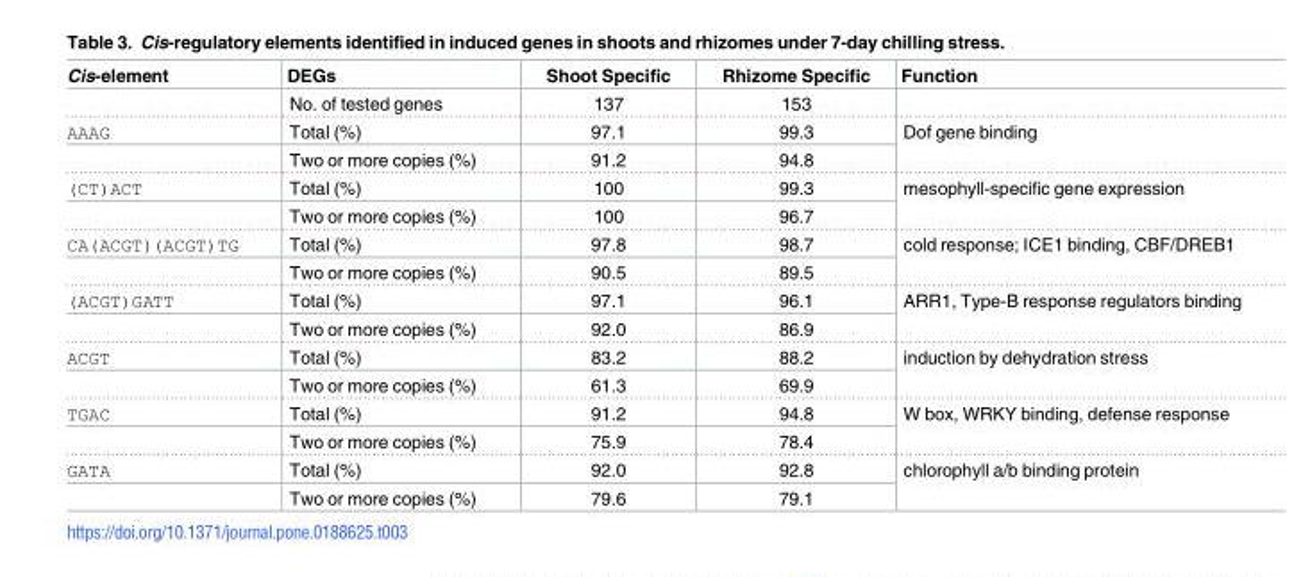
<table><thead><tr><td>Cis-element</td><td>DEGs</td><td>Shoot Specific</td><td>Rhizome Specific</td><td>Function</td></tr></thead><tbody><tr><td></td><td>No. of tested genes</td><td>137</td><td>153</td><td></td></tr><tr><td rowspan="2">AAAG</td><td>Total (%)</td><td>97.1</td><td>99.3</td><td rowspan="2">Dof gene binding</td></tr><tr><td>Two or more copies (%)</td><td>91.2</td><td>94.8</td></tr><tr><td rowspan="2">(CT)ACT</td><td>Total (%)</td><td>100</td><td>99.3</td><td rowspan="2">mesophyll-specific gene expression</td></tr><tr><td>Two or more copies (%)</td><td>100</td><td>96.7</td></tr><tr><td rowspan="2">CA(ACGT)(ACGT)TG</td><td>Total (%)</td><td>97.8</td><td>98.7</td><td rowspan="2">cold response; ICE1 binding, CBF/DREB1</td></tr><tr><td>Two or more copies (%)</td><td>90.5</td><td>89.5</td></tr><tr><td rowspan="2">(ACGT)GATT</td><td>Total (%)</td><td>97.1</td><td>96.1</td><td rowspan="2">ARR1, Type-B response regulators binding</td></tr><tr><td>Two or more copies (%)</td><td>92.0</td><td>86.9</td></tr><tr><td rowspan="2">ACGT</td><td>Total (%)</td><td>83.2</td><td>88.2</td><td rowspan="2">induction by dehydration stress</td></tr><tr><td>Two or more copies (%)</td><td>61.3</td><td>69.9</td></tr><tr><td rowspan="2">TGAC</td><td>Total (%)</td><td>91.2</td><td>94.8</td><td rowspan="2">W box, WRKY binding, defense response</td></tr><tr><td>Two or more copies (%)</td><td>75.9</td><td>78.4</td></tr><tr><td rowspan="2">GATA</td><td>Total (%)</td><td>92.0</td><td>92.8</td><td rowspan="2">chlorophyll a/b binding protein</td></tr><tr><td>Two or more copies (%)</td><td>79.6</td><td>79.1</td></tr></tbody></table>